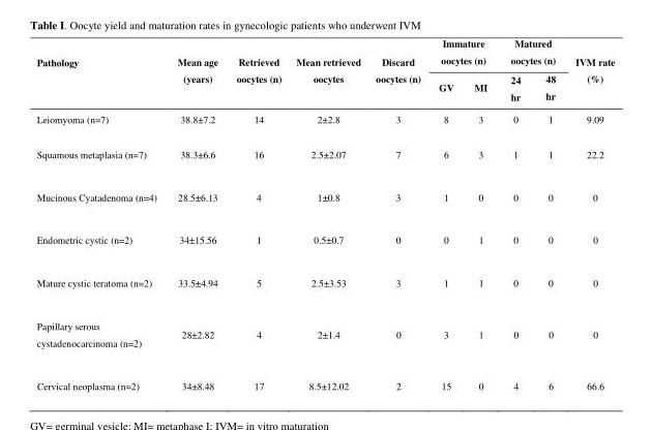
<table><thead><tr><td rowspan="2">Pathology</td><td rowspan="2">Mean age (years)</td><td rowspan="2">Retrieved oocytes (n)</td><td rowspan="2">Mean retrieved oocytes</td><td rowspan="2">Discard oocytes (n)</td><td colspan="2">Immature oocytes (n)</td><td colspan="2">Matured oocytes (n)</td><td rowspan="2">IVM rate (%)</td></tr><tr><td>GV</td><td>MI</td><td>24 hr</td><td>48 hr</td></tr></thead><tbody><tr><td>Leiomyoma (n=7)</td><td>38.8±7.2</td><td>14</td><td>2±2.8</td><td>3</td><td>8</td><td>3</td><td>0</td><td>1</td><td>9.09</td></tr><tr><td>Squamous metaplasia (n=7)</td><td>38.3±6.6</td><td>16</td><td>2.5±2.07</td><td>7</td><td>6</td><td>3</td><td>1</td><td>1</td><td>22.2</td></tr><tr><td>Mucinous Cyatadenoma (n=4)</td><td>28.5±6.13</td><td>4</td><td>1±0.8</td><td>3</td><td>1</td><td>0</td><td>0</td><td>0</td><td>0</td></tr><tr><td>Endometric cystic (n=2)</td><td>34±15.56</td><td>1</td><td>0.5±0.7</td><td>0</td><td>0</td><td>1</td><td>0</td><td>0</td><td>0</td></tr><tr><td>Mature cystic teratoma (n=2)</td><td>33.5±4.94</td><td>5</td><td>2.5±3.53</td><td>3</td><td>1</td><td>1</td><td>0</td><td>0</td><td>0</td></tr><tr><td>Papillary serous cystadenocarcinoma (n=2)</td><td>28±2.82</td><td>4</td><td>2±1.4</td><td>0</td><td>3</td><td>1</td><td>0</td><td>0</td><td>0</td></tr><tr><td>Cervical neoplasma (n=2)</td><td>34±8.48</td><td>17</td><td>8.5±12.02</td><td>2</td><td>15</td><td>0</td><td>4</td><td>6</td><td>66.6</td></tr></tbody></table>